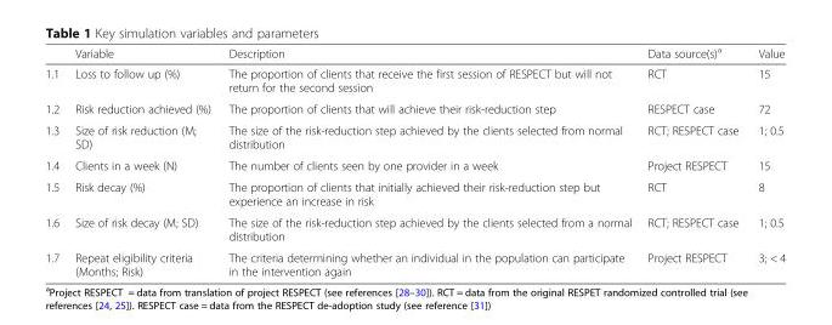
<table><thead><tr><td></td><td>Variable</td><td>Description</td><td>Data source(s)<sup>a</sup></td><td>Value</td></tr></thead><tbody><tr><td>1.1</td><td>Loss to follow up (%)</td><td>The proportion of clients that receive the first session of RESPECT but will not return for the second session</td><td>RCT</td><td>15</td></tr><tr><td>1.2</td><td>Risk reduction achieved (%)</td><td>The proportion of clients that will achieve their risk-reduction step</td><td>RESPECT case</td><td>72</td></tr><tr><td>1.3</td><td>Size of risk reduction (M; SD)</td><td>The size of the risk-reduction step achieved by the clients selected from normal distribution</td><td>RCT; RESPECT case</td><td>1; 0.5</td></tr><tr><td>1.4</td><td>Clients in a week (N)</td><td>The number of clients seen by one provider in a week</td><td>Project RESPECT</td><td>15</td></tr><tr><td>1.5</td><td>Risk decay (%)</td><td>The proportion of clients that initially achieved their risk-reduction step but experience an increase in risk</td><td>RCT</td><td>8</td></tr><tr><td>1.6</td><td>Size of risk decay (M; SD)</td><td>The size of the risk-reduction step achieved by the clients selected from a normal distribution</td><td>RCT; RESPECT case</td><td>1; 0.5</td></tr><tr><td>1.7</td><td>Repeat eligibility criteria (Months; Risk)</td><td>The criteria determining whether an individual in the population can participate in the intervention again</td><td>Project RESPECT</td><td>3; &lt; 4</td></tr></tbody></table>